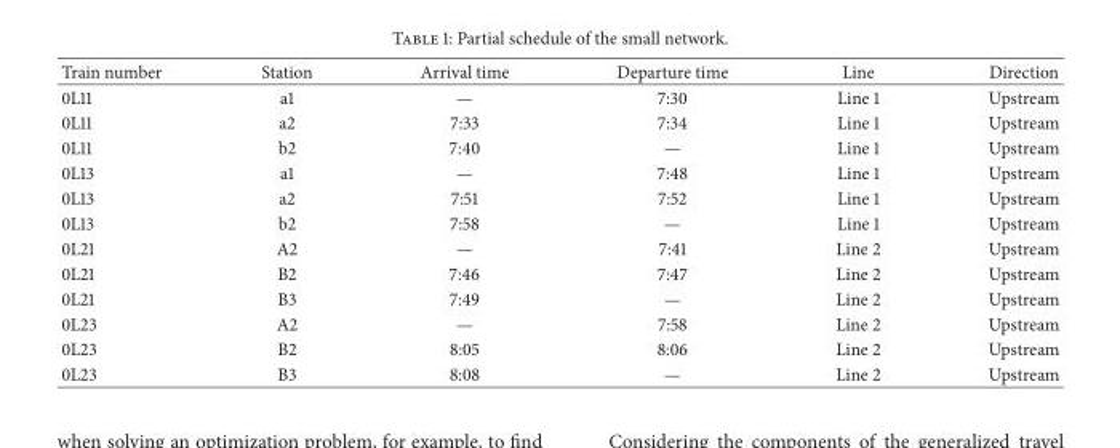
<table><thead><tr><td>Train number</td><td>Station</td><td>Arrival time</td><td>Departure time</td><td>Line</td><td>Direction</td></tr></thead><tbody><tr><td>0L11</td><td>a1</td><td>—</td><td>7:30</td><td>Line 1</td><td>Upstream</td></tr><tr><td>0L11</td><td>a2</td><td>7:33</td><td>7:34</td><td>Line 1</td><td>Upstream</td></tr><tr><td>0L11</td><td>b2</td><td>7:40</td><td>—</td><td>Line 1</td><td>Upstream</td></tr><tr><td>0L13</td><td>a1</td><td>—</td><td>7:48</td><td>Line 1</td><td>Upstream</td></tr><tr><td>0L13</td><td>a2</td><td>7:51</td><td>7:52</td><td>Line 1</td><td>Upstream</td></tr><tr><td>0L13</td><td>b2</td><td>7:58</td><td>—</td><td>Line 1</td><td>Upstream</td></tr><tr><td>0L21</td><td>A2</td><td>—</td><td>7:41</td><td>Line 2</td><td>Upstream</td></tr><tr><td>0L21</td><td>B2</td><td>7:46</td><td>7:47</td><td>Line 2</td><td>Upstream</td></tr><tr><td>0L21</td><td>B3</td><td>7:49</td><td>—</td><td>Line 2</td><td>Upstream</td></tr><tr><td>0L23</td><td>A2</td><td>—</td><td>7:58</td><td>Line 2</td><td>Upstream</td></tr><tr><td>0L23</td><td>B2</td><td>8:05</td><td>8:06</td><td>Line 2</td><td>Upstream</td></tr><tr><td>0L23</td><td>B3</td><td>8:08</td><td>—</td><td>Line 2</td><td>Upstream</td></tr></tbody></table>